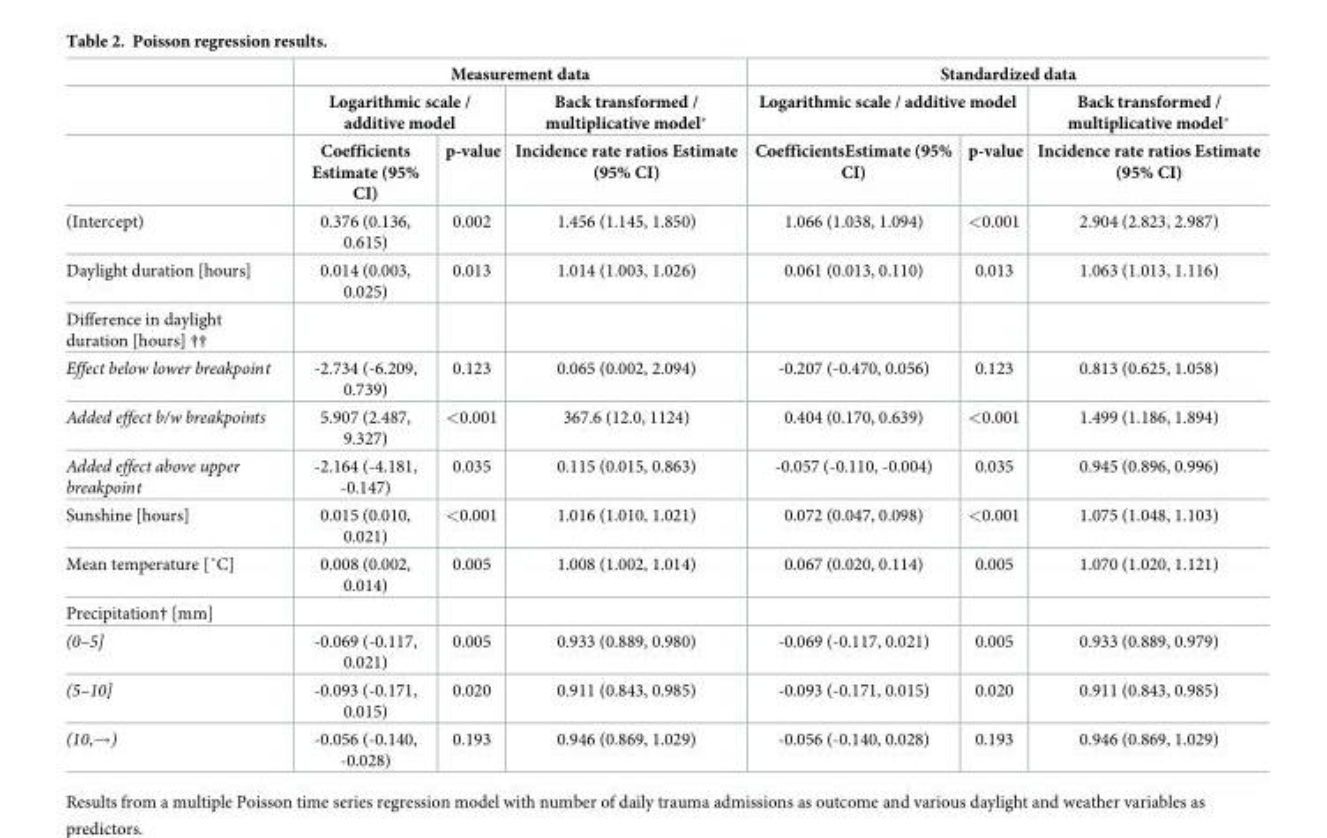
<table><thead><tr><td rowspan="3"></td><td colspan="3">Measurement data</td><td colspan="3">Standardized data</td></tr><tr><td colspan="2">Logarithmic scale / additive model</td><td rowspan="2">Back transformed / multiplicative model* Incidence rate ratios Estimate (95% CI)</td><td colspan="2">Logarithmic scale / additive model</td><td rowspan="2">Back transformed / multiplicative model* Incidence rate ratios Estimate (95% CI)</td></tr><tr><td>Coefficients Estimate (95% CI)</td><td>p-value</td><td>CoefficientsEstimate (95% CI)</td><td>p-value</td></tr></thead><tbody><tr><td>(Intercept)</td><td>0.376 (0.136, 0.615)</td><td>0.002</td><td>1.456 (1.145, 1.850)</td><td>1.066 (1.038, 1.094)</td><td>&lt;0.001</td><td>2.904 (2.823, 2.987)</td></tr><tr><td>Daylight duration [hours]</td><td>0.014 (0.003, 0.025)</td><td>0.013</td><td>1.014 (1.003, 1.026)</td><td>0.061 (0.013, 0.110)</td><td>0.013</td><td>1.063 (1.013, 1.116)</td></tr><tr><td colspan="7">Difference in daylight duration [hours] ††</td></tr><tr><td>Effect below lower breakpoint</td><td>-2.734 (-6.209, 0.739)</td><td>0.123</td><td>0.065 (0.002, 2.094)</td><td>-0.207 (-0.470, 0.056)</td><td>0.123</td><td>0.813 (0.625, 1.058)</td></tr><tr><td>Added effect b/w breakpoints</td><td>5.907 (2.487, 9.327)</td><td>&lt;0.001</td><td>367.6 (12.0, 1124)</td><td>0.404 (0.170, 0.639)</td><td>&lt;0.001</td><td>1.499 (1.186, 1.894)</td></tr><tr><td>Added effect above upper breakpoint</td><td>-2.164 (-4.181, -0.147)</td><td>0.035</td><td>0.115 (0.015, 0.863)</td><td>-0.057 (-0.110, -0.004)</td><td>0.035</td><td>0.945 (0.896, 0.996)</td></tr><tr><td>Sunshine [hours]</td><td>0.015 (0.010, 0.021)</td><td>&lt;0.001</td><td>1.016 (1.010, 1.021)</td><td>0.072 (0.047, 0.098)</td><td>&lt;0.001</td><td>1.075 (1.048, 1.103)</td></tr><tr><td>Mean temperature [˚C]</td><td>0.008 (0.002, 0.014)</td><td>0.005</td><td>1.008 (1.002, 1.014)</td><td>0.067 (0.020, 0.114)</td><td>0.005</td><td>1.070 (1.020, 1.121)</td></tr><tr><td colspan="7">Precipitation† [mm]</td></tr><tr><td>(0–5]</td><td>-0.069 (-0.117, 0.021)</td><td>0.005</td><td>0.933 (0.889, 0.980)</td><td>-0.069 (-0.117, 0.021)</td><td>0.005</td><td>0.933 (0.889, 0.979)</td></tr><tr><td>(5–10]</td><td>-0.093 (-0.171, 0.015)</td><td>0.020</td><td>0.911 (0.843, 0.985)</td><td>-0.093 (-0.171, 0.015)</td><td>0.020</td><td>0.911 (0.843, 0.985)</td></tr><tr><td>(10,→)</td><td>-0.056 (-0.140, -0.028)</td><td>0.193</td><td>0.946 (0.869, 1.029)</td><td>-0.056 (-0.140, 0.028)</td><td>0.193</td><td>0.946 (0.869, 1.029)</td></tr></tbody></table>